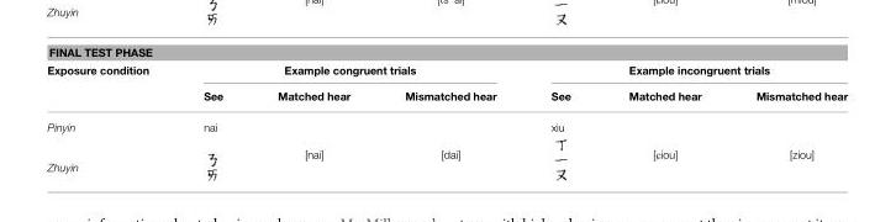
<table><thead><tr><td colspan="7">FINAL TEST PHASE</td></tr><tr><td rowspan="2">Exposure condition</td><td colspan="3">Example congruent trials</td><td colspan="3">Example incongruent trials</td></tr><tr><td>See</td><td>Matched hear</td><td>Mismatched hear</td><td>See</td><td>Matched hear</td><td>Mismatched hear</td></tr></thead><tbody><tr><td>Pinyin</td><td>nai</td><td rowspan="2">[nai]</td><td rowspan="2">[dai]</td><td>xiu</td><td rowspan="2">[Ciou]</td><td rowspan="2">[ziou]</td></tr><tr><td>Zhuyin</td><td></td><td></td></tr></tbody></table>